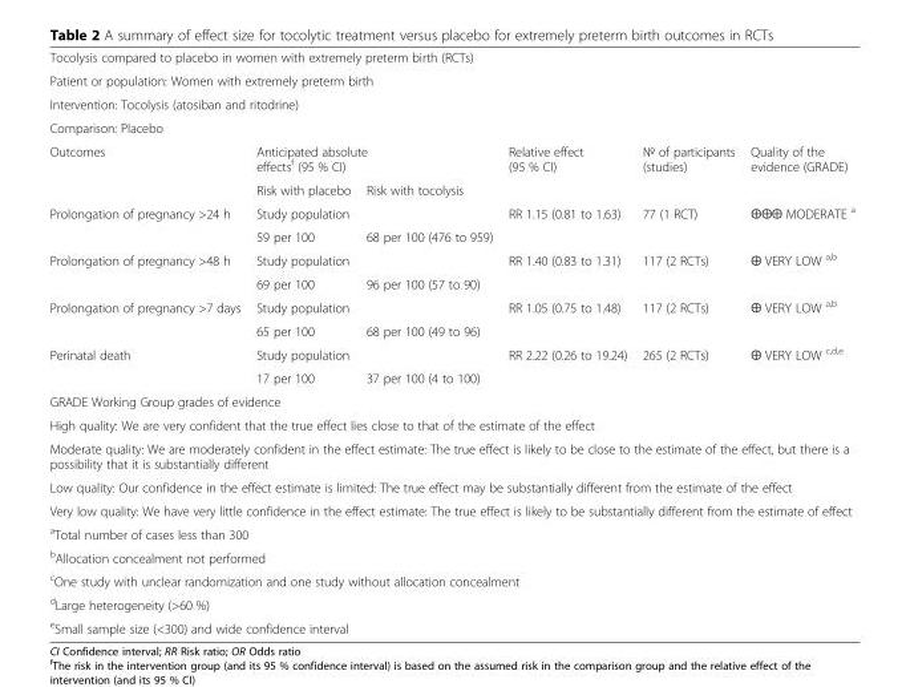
<table><tbody><tr><td colspan="6">Tocolysis compared to placebo in women with extremely preterm birth (RCTs)</td></tr><tr><td colspan="6">Patient or population: Women with extremely preterm birth</td></tr><tr><td colspan="6">Intervention: Tocolysis (atosiban and ritodrine)</td></tr><tr><td colspan="6">Comparison: Placebo</td></tr><tr><td rowspan="2">Outcomes</td><td colspan="2">Anticipated absolute effects<sup>f</sup> (95 % CI)</td><td rowspan="2">Relative effect (95 % CI)</td><td rowspan="2">№ of participants (studies)</td><td rowspan="2">Quality of the evidence (GRADE)</td></tr><tr><td>Risk with placebo</td><td>Risk with tocolysis</td></tr><tr><td rowspan="2">Prolongation of pregnancy &gt;24 h</td><td colspan="2">Study population</td><td rowspan="2">RR 1.15 (0.81 to 1.63)</td><td rowspan="2">77 (1 RCT)</td><td rowspan="2">⨁⨁⨁ MODERATE <sup>a</sup></td></tr><tr><td>59 per 100</td><td>68 per 100 (476 to 959)</td></tr><tr><td rowspan="2">Prolongation of pregnancy &gt;48 h</td><td colspan="2">Study population</td><td rowspan="2">RR 1.40 (0.83 to 1.31)</td><td rowspan="2">117 (2 RCTs)</td><td rowspan="2">⨁ VERY LOW <sup>a,b</sup></td></tr><tr><td>69 per 100</td><td>96 per 100 (57 to 90)</td></tr><tr><td rowspan="2">Prolongation of pregnancy &gt;7 days</td><td colspan="2">Study population</td><td rowspan="2">RR 1.05 (0.75 to 1.48)</td><td rowspan="2">117 (2 RCTs)</td><td rowspan="2">⨁ VERY LOW <sup>a,b</sup></td></tr><tr><td>65 per 100</td><td>68 per 100 (49 to 96)</td></tr><tr><td rowspan="2">Perinatal death</td><td colspan="2">Study population</td><td rowspan="2">RR 2.22 (0.26 to 19.24)</td><td rowspan="2">265 (2 RCTs)</td><td rowspan="2">⨁ VERY LOW <sup>c,d,e</sup></td></tr><tr><td>17 per 100</td><td>37 per 100 (4 to 100)</td></tr><tr><td colspan="6">GRADE Working Group grades of evidence</td></tr><tr><td colspan="6">High quality: We are very confident that the true effect lies close to that of the estimate of the effect</td></tr><tr><td colspan="6">Moderate quality: We are moderately confident in the effect estimate: The true effect is likely to be close to the estimate of the effect, but there is a possibility that it is substantially different</td></tr><tr><td colspan="6">Low quality: Our confidence in the effect estimate is limited: The true effect may be substantially different from the estimate of the effect</td></tr><tr><td colspan="6">Very low quality: We have very little confidence in the effect estimate: The true effect is likely to be substantially different from the estimate of effect</td></tr><tr><td colspan="6"><sup>a</sup>Total number of cases less than 300</td></tr><tr><td colspan="6"><sup>b</sup>Allocation concealment not performed</td></tr><tr><td colspan="6"><sup>c</sup>One study with unclear randomization and one study without allocation concealment</td></tr><tr><td colspan="6"><sup>d</sup>Large heterogeneity (&gt;60 %)</td></tr><tr><td colspan="6"><sup>e</sup>Small sample size (&lt;300) and wide confidence interval</td></tr></tbody></table>